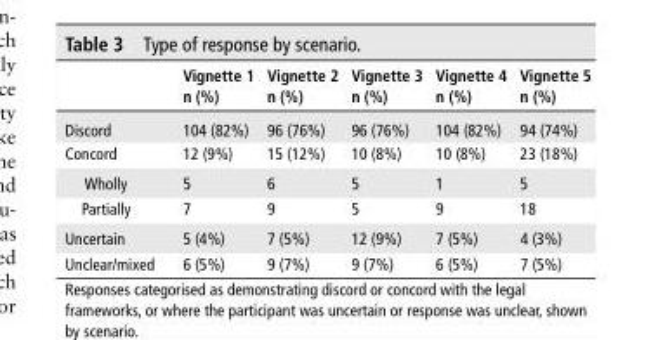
<table><thead><tr><td></td><td>Vignette 1 n (%)</td><td>Vignette 2 n (%)</td><td>Vignette 3 n (%)</td><td>Vignette 4 n (%)</td><td>Vignette 5 n (%)</td></tr></thead><tbody><tr><td>Discord</td><td>104 (82%)</td><td>96 (76%)</td><td>96 (76%)</td><td>104 (82%)</td><td>94 (74%)</td></tr><tr><td>Concord</td><td>12 (9%)</td><td>15 (12%)</td><td>10 (8%)</td><td>10 (8%)</td><td>23 (18%)</td></tr><tr><td>Wholly</td><td>5</td><td>6</td><td>5</td><td>1</td><td>5</td></tr><tr><td>Partially</td><td>7</td><td>9</td><td>5</td><td>9</td><td>18</td></tr><tr><td>Uncertain</td><td>5 (4%)</td><td>7 (5%)</td><td>12 (9%)</td><td>7 (5%)</td><td>4 (3%)</td></tr><tr><td>Unclear/mixed</td><td>6 (5%)</td><td>9 (7%)</td><td>9 (7%)</td><td>6 (5%)</td><td>7 (5%)</td></tr></tbody></table>